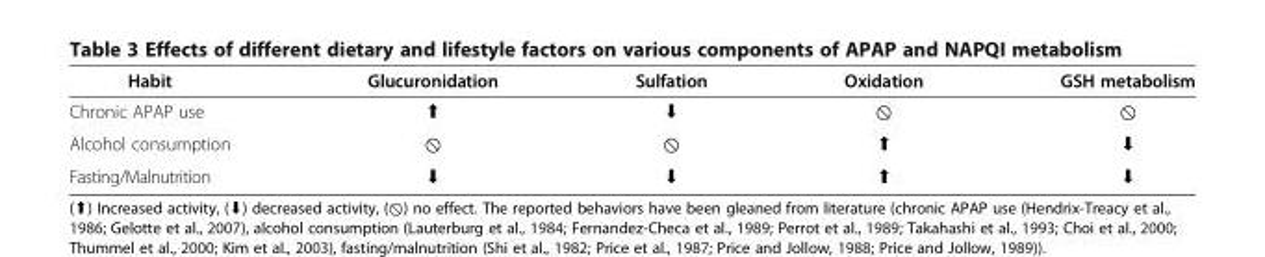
<table><thead><tr><td>Habit</td><td>Glucuronidation</td><td>Sulfation</td><td>Oxidation</td><td>GSH metabolism</td></tr></thead><tbody><tr><td>Chronic APAP use</td><td>⬆</td><td>⬇</td><td>⃠</td><td>⃠</td></tr><tr><td>Alcohol consumption</td><td>⃠</td><td>⃠</td><td>⬆</td><td>⬇</td></tr><tr><td>Fasting/Malnutrition</td><td>⬇</td><td>⬇</td><td>⬆</td><td>⬇</td></tr></tbody></table>